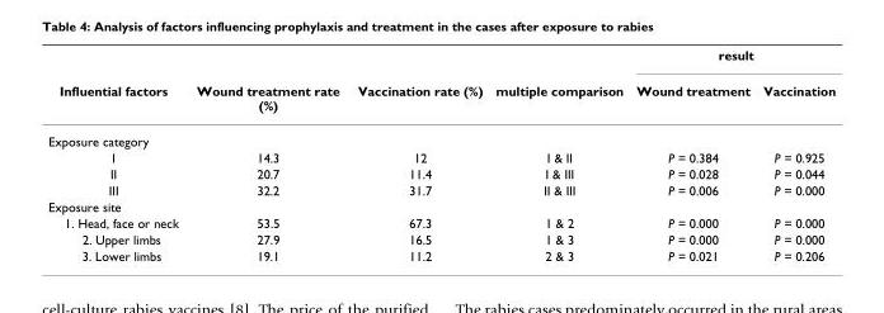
<table><thead><tr><td rowspan="2">Influential factors</td><td rowspan="2">Wound treatment rate (%)</td><td rowspan="2">Vaccination rate (%)</td><td rowspan="2">multiple comparison</td><td colspan="2">result</td></tr><tr><td>Wound treatment</td><td>Vaccination</td></tr></thead><tbody><tr><td colspan="6">Exposure category</td></tr><tr><td>I</td><td>14.3</td><td>12</td><td>I &amp; II</td><td>P = 0.384</td><td>P = 0.925</td></tr><tr><td>II</td><td>20.7</td><td>11.4</td><td>I &amp; III</td><td>P = 0.028</td><td>P = 0.044</td></tr><tr><td>III</td><td>32.2</td><td>31.7</td><td>II &amp; III</td><td>P = 0.006</td><td>P = 0.000</td></tr><tr><td colspan="6">Exposure site</td></tr><tr><td>1. Head, face or neck</td><td>53.5</td><td>67.3</td><td>1 &amp; 2</td><td>P = 0.000</td><td>P = 0.000</td></tr><tr><td>2. Upper limbs</td><td>27.9</td><td>16.5</td><td>1 &amp; 3</td><td>P = 0.000</td><td>P = 0.000</td></tr><tr><td>3. Lower limbs</td><td>19.1</td><td>11.2</td><td>2 &amp; 3</td><td>P = 0.021</td><td>P = 0.206</td></tr></tbody></table>